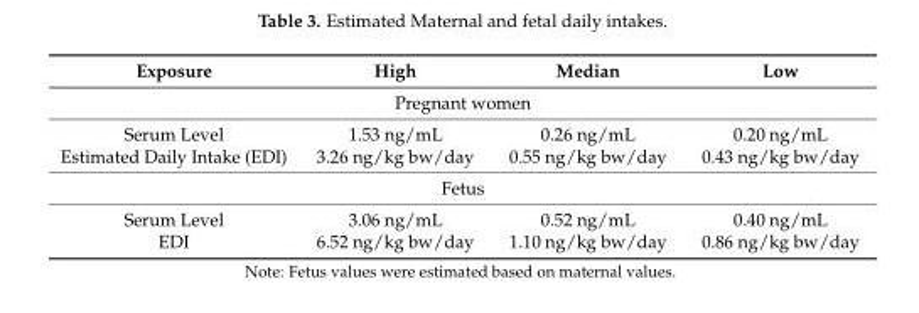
<table><thead><tr><td>Exposure</td><td>High</td><td>Median</td><td>Low</td></tr></thead><tbody><tr><td colspan="4">Pregnant women</td></tr><tr><td>Serum Level</td><td>1.53 ng/mL</td><td>0.26 ng/mL</td><td>0.20 ng/mL</td></tr><tr><td>Estimated Daily Intake (EDI)</td><td>3.26 ng/kg bw/day</td><td>0.55 ng/kg bw/day</td><td>0.43 ng/kg bw/day</td></tr><tr><td colspan="4">Fetus</td></tr><tr><td>Serum Level</td><td>3.06 ng/mL</td><td>0.52 ng/mL</td><td>0.40 ng/mL</td></tr><tr><td>EDI</td><td>6.52 ng/kg bw/day</td><td>1.10 ng/kg bw/day</td><td>0.86 ng/kg bw/day</td></tr></tbody></table>